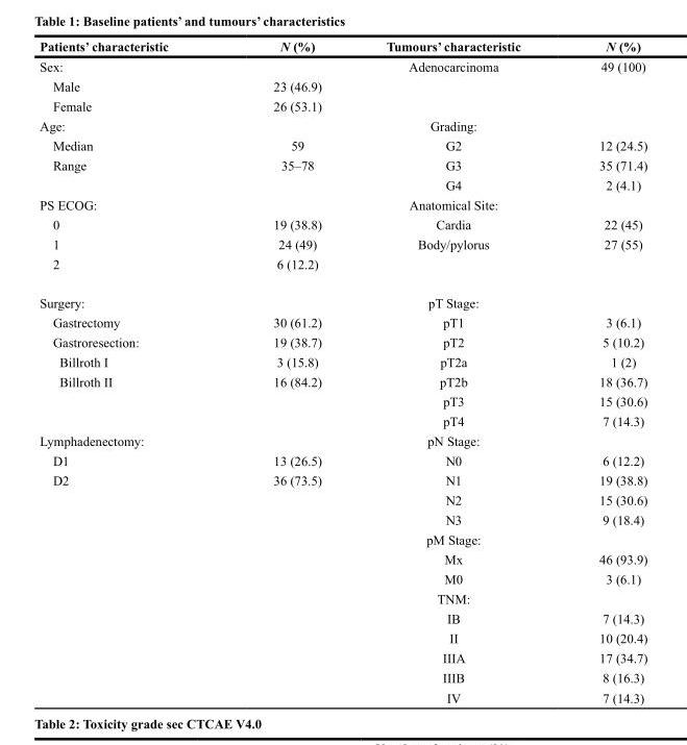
<table><thead><tr><td>Patients’ characteristic</td><td>N (%)</td><td>Tumours’ characteristic</td><td>N (%)</td></tr></thead><tbody><tr><td>Sex:</td><td></td><td>Adenocarcinoma</td><td>49 (100)</td></tr><tr><td>Male</td><td>23 (46.9)</td><td></td><td></td></tr><tr><td>Female</td><td>26 (53.1)</td><td></td><td></td></tr><tr><td>Age:</td><td></td><td>Grading:</td><td></td></tr><tr><td>Median</td><td>59</td><td>G2</td><td>12 (24.5)</td></tr><tr><td rowspan="2">Range</td><td>35–78</td><td>G3</td><td>35 (71.4)</td></tr><tr><td></td><td>G4</td><td>2 (4.1)</td></tr><tr><td>PS ECOG:</td><td></td><td>Anatomical Site:</td><td></td></tr><tr><td>0</td><td>19 (38.8)</td><td>Cardia</td><td>22 (45)</td></tr><tr><td>1</td><td>24 (49)</td><td>Body/pylorus</td><td>27 (55)</td></tr><tr><td>2</td><td>6 (12.2)</td><td></td><td></td></tr><tr><td>Surgery:</td><td></td><td>pT Stage:</td><td></td></tr><tr><td>Gastrectomy</td><td>30 (61.2)</td><td>pT1</td><td>3 (6.1)</td></tr><tr><td>Gastroresection:</td><td>19 (38.7)</td><td>pT2</td><td>5 (10.2)</td></tr><tr><td>Billroth I</td><td>3 (15.8)</td><td>pT2a</td><td>1 (2)</td></tr><tr><td rowspan="3">Billroth II</td><td>16 (84.2)</td><td>pT2b</td><td>18 (36.7)</td></tr><tr><td></td><td>pT3</td><td>15 (30.6)</td></tr><tr><td></td><td>pT4</td><td>7 (14.3)</td></tr><tr><td>Lymphadenectomy:</td><td></td><td>pN Stage:</td><td></td></tr><tr><td>D1</td><td>13 (26.5)</td><td>N0</td><td>6 (12.2)</td></tr><tr><td rowspan="12">D2</td><td>36 (73.5)</td><td>N1</td><td>19 (38.8)</td></tr><tr><td></td><td>N2</td><td>15 (30.6)</td></tr><tr><td></td><td>N3</td><td>9 (18.4)</td></tr><tr><td></td><td>pM Stage:</td><td></td></tr><tr><td></td><td>Mx</td><td>46 (93.9)</td></tr><tr><td></td><td>M0</td><td>3 (6.1)</td></tr><tr><td></td><td>TNM:</td><td></td></tr><tr><td></td><td>IB</td><td>7 (14.3)</td></tr><tr><td></td><td>II</td><td>10 (20.4)</td></tr><tr><td></td><td>IIIA</td><td>17 (34.7)</td></tr><tr><td></td><td>IIIB</td><td>8 (16.3)</td></tr><tr><td></td><td>IV</td><td>7 (14.3)</td></tr></tbody></table>